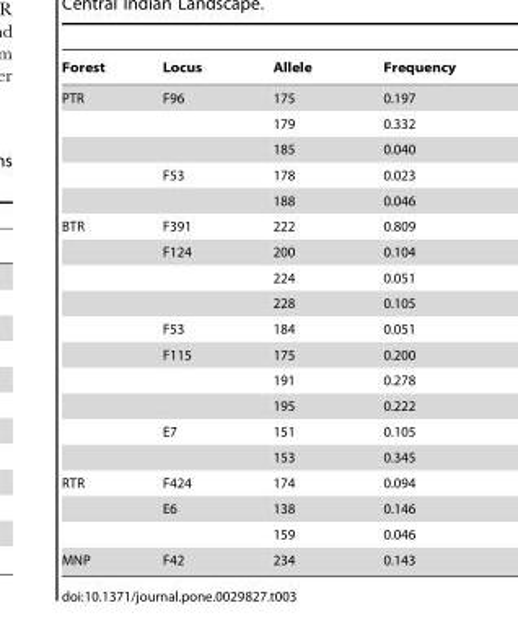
<table><thead><tr><td>Forest</td><td>Locus</td><td>Allele</td><td>Frequency</td></tr></thead><tbody><tr><td rowspan="5">PTR</td><td>F96</td><td>175</td><td>0.197</td></tr><tr><td></td><td>179</td><td>0.332</td></tr><tr><td></td><td>185</td><td>0.040</td></tr><tr><td>F53</td><td>178</td><td>0.023</td></tr><tr><td></td><td>188</td><td>0.046</td></tr><tr><td rowspan="10">BTR</td><td>F391</td><td>222</td><td>0.809</td></tr><tr><td>F124</td><td>200</td><td>0.104</td></tr><tr><td></td><td>224</td><td>0.051</td></tr><tr><td></td><td>228</td><td>0.105</td></tr><tr><td>F53</td><td>184</td><td>0.051</td></tr><tr><td>F115</td><td>175</td><td>0.200</td></tr><tr><td></td><td>191</td><td>0.278</td></tr><tr><td></td><td>195</td><td>0.222</td></tr><tr><td>E7</td><td>151</td><td>0.105</td></tr><tr><td></td><td>153</td><td>0.345</td></tr><tr><td rowspan="3">RTR</td><td>F424</td><td>174</td><td>0.094</td></tr><tr><td>E6</td><td>138</td><td>0.146</td></tr><tr><td></td><td>159</td><td>0.046</td></tr><tr><td>MNP</td><td>F42</td><td>234</td><td>0.143</td></tr></tbody></table>